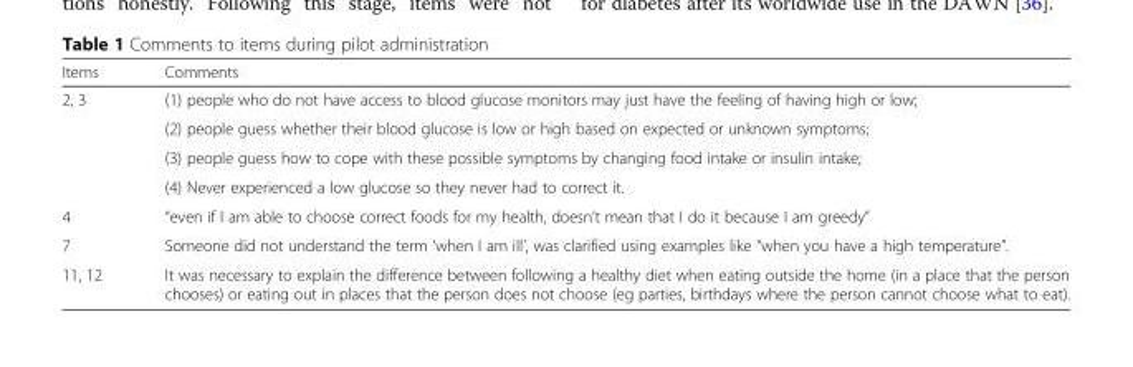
<table><thead><tr><td>Items</td><td>Comments</td></tr></thead><tbody><tr><td rowspan="4">2, 3</td><td>(1) people who do not have access to blood glucose monitors may just have the feeling of having high or low;</td></tr><tr><td>(2) people guess whether their blood glucose is low or high based on expected or unknown symptoms;</td></tr><tr><td>(3) people guess how to cope with these possible symptoms by changing food intake or insulin intake;</td></tr><tr><td>(4) Never experienced a low glucose so they never had to correct it.</td></tr><tr><td>4</td><td>“even if I am able to choose correct foods for my health, doesn’t mean that I do it because I am greedy”</td></tr><tr><td>7</td><td>Someone did not understand the term ‘when I am ill’, was clarified using examples like “when you have a high temperature”.</td></tr><tr><td>11, 12</td><td>It was necessary to explain the difference between following a healthy diet when eating outside the home (in a place that the person chooses) or eating out in places that the person does not choose (eg parties, birthdays where the person cannot choose what to eat).</td></tr></tbody></table>